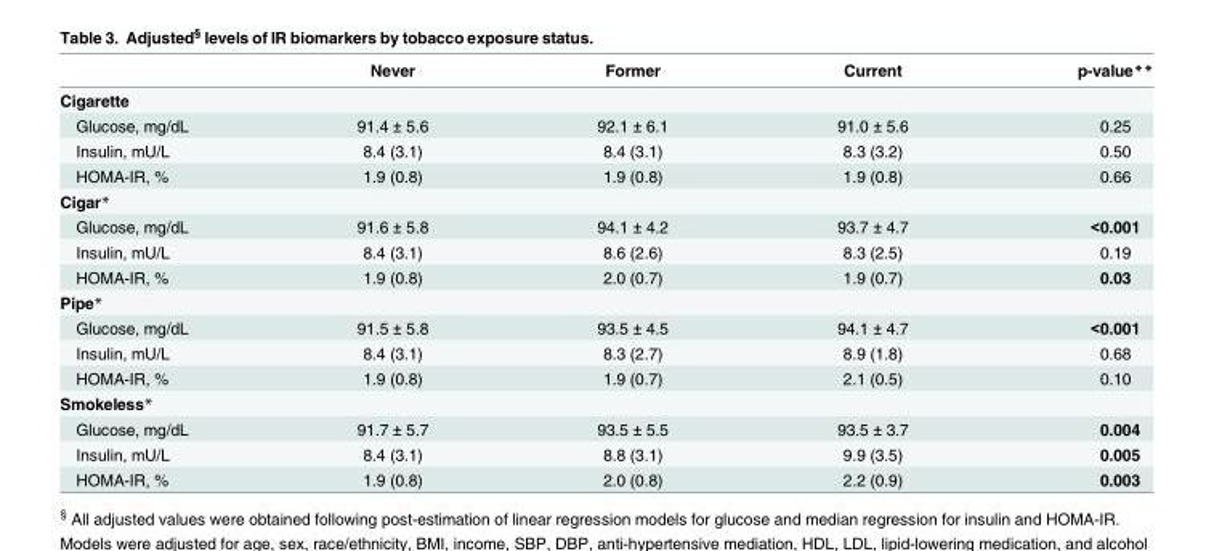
<table><thead><tr><td></td><td>Never</td><td>Former</td><td>Current</td><td>p-value**</td></tr></thead><tbody><tr><td colspan="5">Cigarette</td></tr><tr><td>Glucose, mg/dL</td><td>91.4 ± 5.6</td><td>92.1 ± 6.1</td><td>91.0 ± 5.6</td><td>0.25</td></tr><tr><td>Insulin, mU/L</td><td>8.4 (3.1)</td><td>8.4 (3.1)</td><td>8.3 (3.2)</td><td>0.50</td></tr><tr><td>HOMA-IR, %</td><td>1.9 (0.8)</td><td>1.9 (0.8)</td><td>1.9 (0.8)</td><td>0.66</td></tr><tr><td colspan="5">Cigar*</td></tr><tr><td>Glucose, mg/dL</td><td>91.6 ± 5.8</td><td>94.1 ± 4.2</td><td>93.7 ± 4.7</td><td>&lt;0.001</td></tr><tr><td>Insulin, mU/L</td><td>8.4 (3.1)</td><td>8.6 (2.6)</td><td>8.3 (2.5)</td><td>0.19</td></tr><tr><td>HOMA-IR, %</td><td>1.9 (0.8)</td><td>2.0 (0.7)</td><td>1.9 (0.7)</td><td>0.03</td></tr><tr><td colspan="5">Pipe*</td></tr><tr><td>Glucose, mg/dL</td><td>91.5 ± 5.8</td><td>93.5 ± 4.5</td><td>94.1 ± 4.7</td><td>&lt;0.001</td></tr><tr><td>Insulin, mU/L</td><td>8.4 (3.1)</td><td>8.3 (2.7)</td><td>8.9 (1.8)</td><td>0.68</td></tr><tr><td>HOMA-IR, %</td><td>1.9 (0.8)</td><td>1.9 (0.7)</td><td>2.1 (0.5)</td><td>0.10</td></tr><tr><td colspan="5">Smokeless*</td></tr><tr><td>Glucose, mg/dL</td><td>91.7 ± 5.7</td><td>93.5 ± 5.5</td><td>93.5 ± 3.7</td><td>0.004</td></tr><tr><td>Insulin, mU/L</td><td>8.4 (3.1)</td><td>8.8 (3.1)</td><td>9.9 (3.5)</td><td>0.005</td></tr><tr><td>HOMA-IR, %</td><td>1.9 (0.8)</td><td>2.0 (0.8)</td><td>2.2 (0.9)</td><td>0.003</td></tr></tbody></table>